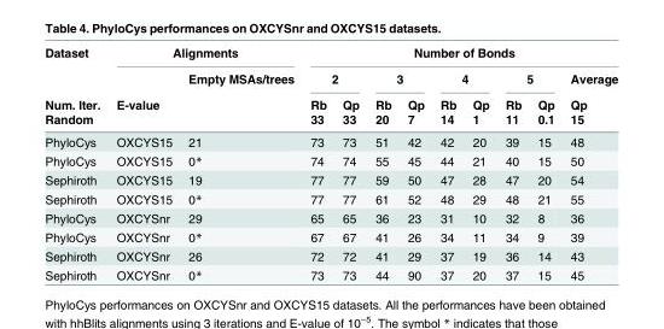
<table><thead><tr><td rowspan="4">Dataset Num. Iter. Random</td><td colspan="2">Alignments</td><td colspan="9">Number of Bonds</td></tr><tr><td rowspan="3">E-value</td><td rowspan="3">Empty MSAs/trees</td><td colspan="2">2</td><td colspan="2">3</td><td colspan="2">4</td><td colspan="2">5</td><td rowspan="3">Average Qp 15</td></tr><tr><td rowspan="2">Rb 33</td><td rowspan="2">Qp 33</td><td rowspan="2">Rb 20</td><td rowspan="2">Qp 7</td><td rowspan="2">Rb 14</td><td rowspan="2">Qp 1</td><td rowspan="2">Rb 11</td><td rowspan="2">Qp 0.1</td></tr><tr></tr></thead><tbody><tr><td>PhyloCys</td><td>OXCYS15</td><td>21</td><td>73</td><td>73</td><td>51</td><td>42</td><td>42</td><td>20</td><td>39</td><td>15</td><td>48</td></tr><tr><td>PhyloCys</td><td>OXCYS15</td><td>0*</td><td>74</td><td>74</td><td>55</td><td>45</td><td>44</td><td>21</td><td>40</td><td>15</td><td>50</td></tr><tr><td>Sephiroth</td><td>OXCYS15</td><td>19</td><td>77</td><td>77</td><td>59</td><td>50</td><td>47</td><td>28</td><td>47</td><td>20</td><td>54</td></tr><tr><td>Sephiroth</td><td>OXCYS15</td><td>0*</td><td>77</td><td>77</td><td>61</td><td>52</td><td>48</td><td>29</td><td>48</td><td>21</td><td>55</td></tr><tr><td>PhyloCys</td><td>OXCYSnr</td><td>29</td><td>65</td><td>65</td><td>36</td><td>23</td><td>31</td><td>10</td><td>32</td><td>8</td><td>36</td></tr><tr><td>PhyloCys</td><td>OXCYSnr</td><td>0*</td><td>67</td><td>67</td><td>41</td><td>26</td><td>34</td><td>11</td><td>34</td><td>9</td><td>39</td></tr><tr><td>Sephiroth</td><td>OXCYSnr</td><td>26</td><td>72</td><td>72</td><td>41</td><td>29</td><td>37</td><td>19</td><td>36</td><td>14</td><td>43</td></tr><tr><td>Sephiroth</td><td>OXCYSnr</td><td>0*</td><td>73</td><td>73</td><td>44</td><td>90</td><td>37</td><td>20</td><td>37</td><td>15</td><td>45</td></tr></tbody></table>